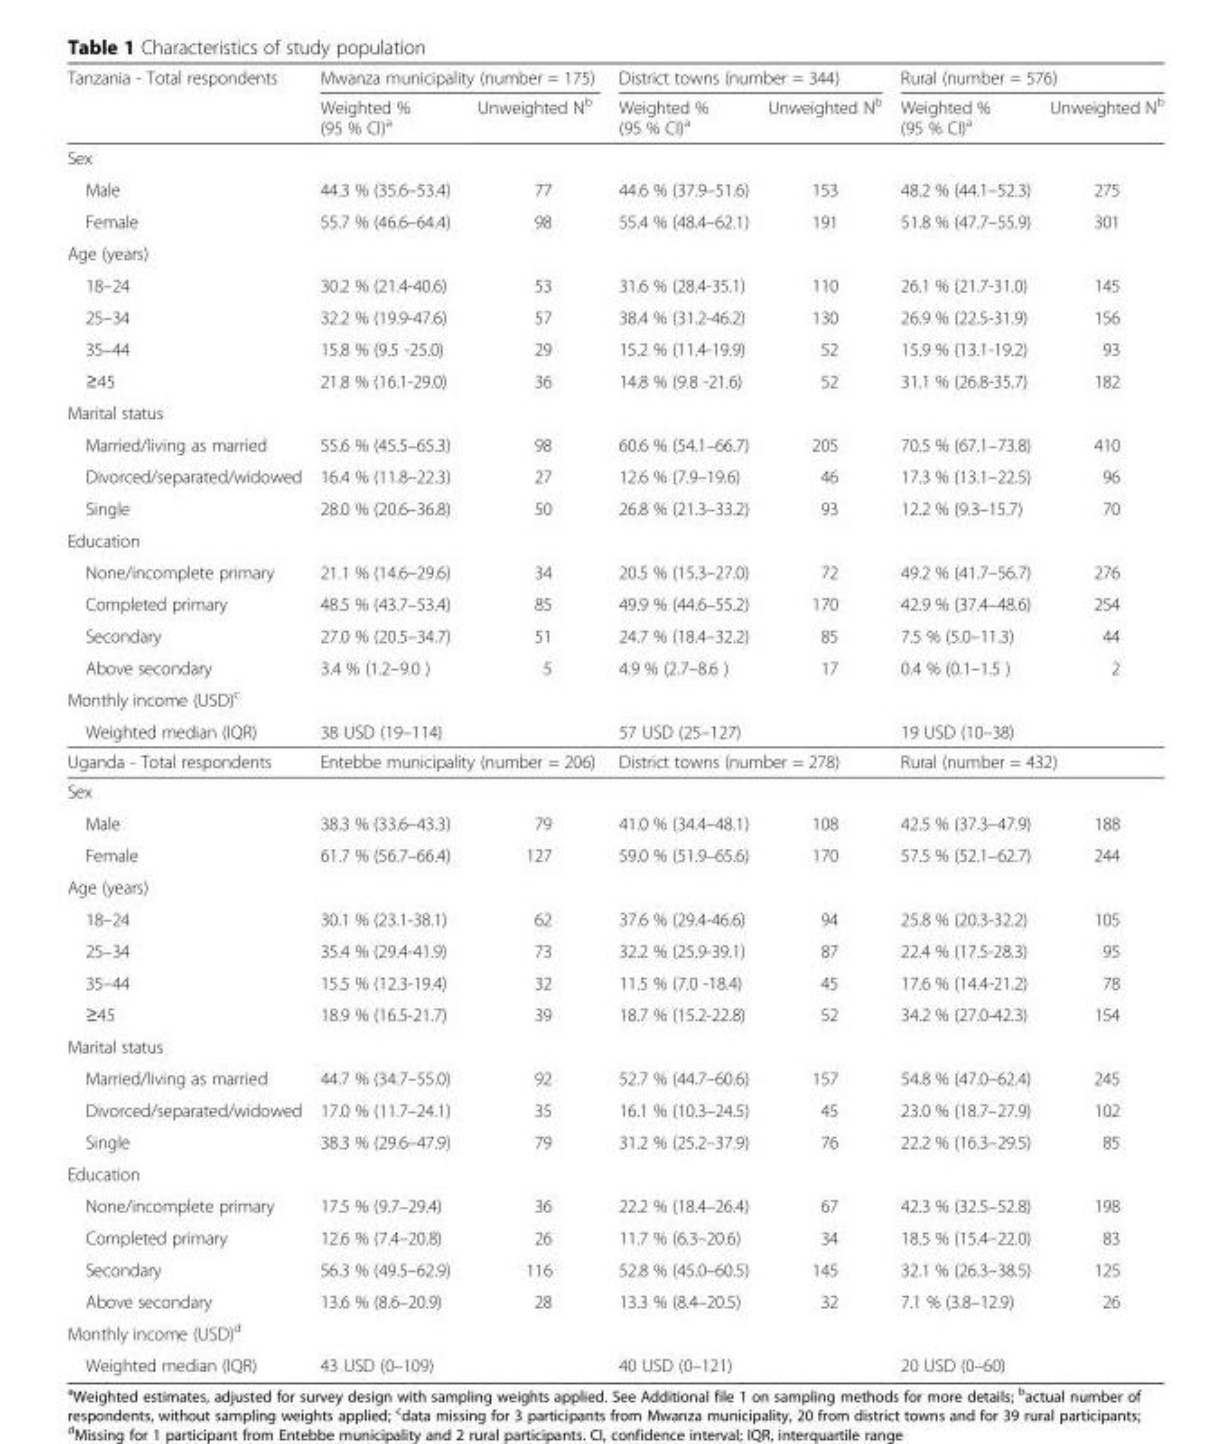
<table><thead><tr><td rowspan="2">Tanzania - Total respondents</td><td colspan="2">Mwanza municipality (number = 175)</td><td colspan="2">District towns (number = 344)</td><td colspan="2">Rural (number = 576)</td></tr><tr><td>Weighted % (95 % CI)<sup>a</sup></td><td>Unweighted N<sup>b</sup></td><td>Weighted % (95 % CI)<sup>a</sup></td><td>Unweighted N<sup>b</sup></td><td>Weighted % (95 % CI)<sup>a</sup></td><td>Unweighted N<sup>b</sup></td></tr></thead><tbody><tr><td colspan="7">Sex</td></tr><tr><td>Male</td><td>44.3 % (35.6–53.4)</td><td>77</td><td>44.6 % (37.9–51.6)</td><td>153</td><td>48.2 % (44.1–52.3)</td><td>275</td></tr><tr><td>Female</td><td>55.7 % (46.6–64.4)</td><td>98</td><td>55.4 % (48.4–62.1)</td><td>191</td><td>51.8 % (47.7–55.9)</td><td>301</td></tr><tr><td colspan="7">Age (years)</td></tr><tr><td>18–24</td><td>30.2 % (21.4-40.6)</td><td>53</td><td>31.6 % (28.4-35.1)</td><td>110</td><td>26.1 % (21.7-31.0)</td><td>145</td></tr><tr><td>25–34</td><td>32.2 % (19.9-47.6)</td><td>57</td><td>38.4 % (31.2-46.2)</td><td>130</td><td>26.9 % (22.5-31.9)</td><td>156</td></tr><tr><td>35–44</td><td>15.8 % (9.5 -25.0)</td><td>29</td><td>15.2 % (11.4-19.9)</td><td>52</td><td>15.9 % (13.1-19.2)</td><td>93</td></tr><tr><td>≥45</td><td>21.8 % (16.1-29.0)</td><td>36</td><td>14.8 % (9.8 -21.6)</td><td>52</td><td>31.1 % (26.8-35.7)</td><td>182</td></tr><tr><td colspan="7">Marital status</td></tr><tr><td>Married/living as married</td><td>55.6 % (45.5–65.3)</td><td>98</td><td>60.6 % (54.1–66.7)</td><td>205</td><td>70.5 % (67.1–73.8)</td><td>410</td></tr><tr><td>Divorced/separated/widowed</td><td>16.4 % (11.8–22.3)</td><td>27</td><td>12.6 % (7.9–19.6)</td><td>46</td><td>17.3 % (13.1–22.5)</td><td>96</td></tr><tr><td>Single</td><td>28.0 % (20.6–36.8)</td><td>50</td><td>26.8 % (21.3–33.2)</td><td>93</td><td>12.2 % (9.3–15.7)</td><td>70</td></tr><tr><td colspan="7">Education</td></tr><tr><td>None/incomplete primary</td><td>21.1 % (14.6–29.6)</td><td>34</td><td>20.5 % (15.3–27.0)</td><td>72</td><td>49.2 % (41.7–56.7)</td><td>276</td></tr><tr><td>Completed primary</td><td>48.5 % (43.7–53.4)</td><td>85</td><td>49.9 % (44.6–55.2)</td><td>170</td><td>42.9 % (37.4–48.6)</td><td>254</td></tr><tr><td>Secondary</td><td>27.0 % (20.5–34.7)</td><td>51</td><td>24.7 % (18.4–32.2)</td><td>85</td><td>7.5 % (5.0–11.3)</td><td>44</td></tr><tr><td>Above secondary</td><td>3.4 % (1.2–9.0 )</td><td>5</td><td>4.9 % (2.7–8.6 )</td><td>17</td><td>0.4 % (0.1–1.5 )</td><td>2</td></tr><tr><td colspan="7">Monthly income (USD)<sup>c</sup></td></tr><tr><td>Weighted median (IQR)</td><td>38 USD (19–114)</td><td></td><td>57 USD (25–127)</td><td></td><td>19 USD (10–38)</td><td></td></tr><tr><td>Uganda - Total respondents</td><td colspan="2">Entebbe municipality (number = 206)</td><td colspan="2">District towns (number = 278)</td><td colspan="2">Rural (number = 432)</td></tr><tr><td colspan="7">Sex</td></tr><tr><td>Male</td><td>38.3 % (33.6–43.3)</td><td>79</td><td>41.0 % (34.4–48.1)</td><td>108</td><td>42.5 % (37.3–47.9)</td><td>188</td></tr><tr><td>Female</td><td>61.7 % (56.7–66.4)</td><td>127</td><td>59.0 % (51.9–65.6)</td><td>170</td><td>57.5 % (52.1–62.7)</td><td>244</td></tr><tr><td colspan="7">Age (years)</td></tr><tr><td>18–24</td><td>30.1 % (23.1-38.1)</td><td>62</td><td>37.6 % (29.4-46.6)</td><td>94</td><td>25.8 % (20.3-32.2)</td><td>105</td></tr><tr><td>25–34</td><td>35.4 % (29.4-41.9)</td><td>73</td><td>32.2 % (25.9-39.1)</td><td>87</td><td>22.4 % (17.5-28.3)</td><td>95</td></tr><tr><td>35–44</td><td>15.5 % (12.3-19.4)</td><td>32</td><td>11.5 % (7.0 -18.4)</td><td>45</td><td>17.6 % (14.4-21.2)</td><td>78</td></tr><tr><td>≥45</td><td>18.9 % (16.5-21.7)</td><td>39</td><td>18.7 % (15.2-22.8)</td><td>52</td><td>34.2 % (27.0-42.3)</td><td>154</td></tr><tr><td colspan="7">Marital status</td></tr><tr><td>Married/living as married</td><td>44.7 % (34.7–55.0)</td><td>92</td><td>52.7 % (44.7–60.6)</td><td>157</td><td>54.8 % (47.0–62.4)</td><td>245</td></tr><tr><td>Divorced/separated/widowed</td><td>17.0 % (11.7–24.1)</td><td>35</td><td>16.1 % (10.3–24.5)</td><td>45</td><td>23.0 % (18.7–27.9)</td><td>102</td></tr><tr><td>Single</td><td>38.3 % (29.6–47.9)</td><td>79</td><td>31.2 % (25.2–37.9)</td><td>76</td><td>22.2 % (16.3–29.5)</td><td>85</td></tr><tr><td colspan="7">Education</td></tr><tr><td>None/incomplete primary</td><td>17.5 % (9.7–29.4)</td><td>36</td><td>22.2 % (18.4–26.4)</td><td>67</td><td>42.3 % (32.5–52.8)</td><td>198</td></tr><tr><td>Completed primary</td><td>12.6 % (7.4–20.8)</td><td>26</td><td>11.7 % (6.3–20.6)</td><td>34</td><td>18.5 % (15.4–22.0)</td><td>83</td></tr><tr><td>Secondary</td><td>56.3 % (49.5–62.9)</td><td>116</td><td>52.8 % (45.0–60.5)</td><td>145</td><td>32.1 % (26.3–38.5)</td><td>125</td></tr><tr><td>Above secondary</td><td>13.6 % (8.6–20.9)</td><td>28</td><td>13.3 % (8.4–20.5)</td><td>32</td><td>7.1 % (3.8–12.9)</td><td>26</td></tr><tr><td colspan="7">Monthly income (USD)<sup>d</sup></td></tr><tr><td>Weighted median (IQR)</td><td>43 USD (0–109)</td><td></td><td>40 USD (0–121)</td><td></td><td>20 USD (0–60)</td><td></td></tr></tbody></table>